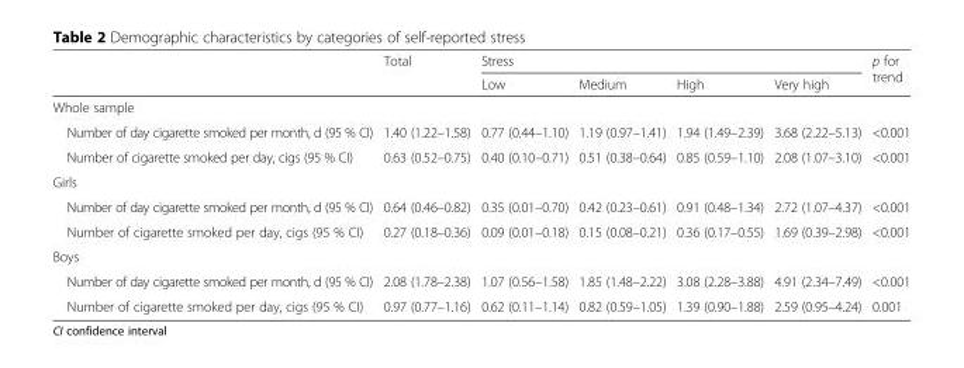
<table><thead><tr><td rowspan="2"></td><td rowspan="2">Total</td><td colspan="4">Stress</td><td rowspan="2">p for trend</td></tr><tr><td>Low</td><td>Medium</td><td>High</td><td>Very high</td></tr></thead><tbody><tr><td colspan="7">Whole sample</td></tr><tr><td>Number of day cigarette smoked per month, d (95 % CI)</td><td>1.40 (1.22–1.58)</td><td>0.77 (0.44–1.10)</td><td>1.19 (0.97–1.41)</td><td>1.94 (1.49–2.39)</td><td>3.68 (2.22–5.13)</td><td>&lt;0.001</td></tr><tr><td>Number of cigarette smoked per day, cigs (95 % CI)</td><td>0.63 (0.52–0.75)</td><td>0.40 (0.10–0.71)</td><td>0.51 (0.38–0.64)</td><td>0.85 (0.59–1.10)</td><td>2.08 (1.07–3.10)</td><td>&lt;0.001</td></tr><tr><td colspan="7">Girls</td></tr><tr><td>Number of day cigarette smoked per month, d (95 % CI)</td><td>0.64 (0.46–0.82)</td><td>0.35 (0.01–0.70)</td><td>0.42 (0.23–0.61)</td><td>0.91 (0.48–1.34)</td><td>2.72 (1.07–4.37)</td><td>&lt;0.001</td></tr><tr><td>Number of cigarette smoked per day, cigs (95 % CI)</td><td>0.27 (0.18–0.36)</td><td>0.09 (0.01–0.18)</td><td>0.15 (0.08–0.21)</td><td>0.36 (0.17–0.55)</td><td>1.69 (0.39–2.98)</td><td>&lt;0.001</td></tr><tr><td colspan="7">Boys</td></tr><tr><td>Number of day cigarette smoked per month, d (95 % CI)</td><td>2.08 (1.78–2.38)</td><td>1.07 (0.56–1.58)</td><td>1.85 (1.48–2.22)</td><td>3.08 (2.28–3.88)</td><td>4.91 (2.34–7.49)</td><td>&lt;0.001</td></tr><tr><td>Number of cigarette smoked per day, cigs (95 % CI)</td><td>0.97 (0.77–1.16)</td><td>0.62 (0.11–1.14)</td><td>0.82 (0.59–1.05)</td><td>1.39 (0.90–1.88)</td><td>2.59 (0.95–4.24)</td><td>0.001</td></tr></tbody></table>